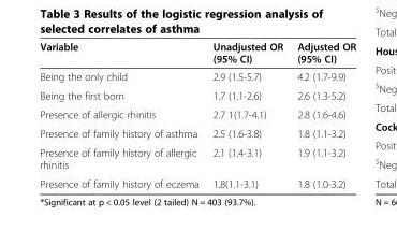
<table><thead><tr><td>Variable</td><td>Unadjusted OR (95% CI)</td><td>Adjusted OR (95% CI)</td></tr></thead><tbody><tr><td>Being the only child</td><td>2.9 (1.5-5.7)</td><td>4.2 (1.7-9.9)</td></tr><tr><td>Being the first born</td><td>1.7 (1.1-2.6)</td><td>2.6 (1.3-5.2)</td></tr><tr><td>Presence of allergic rhinitis</td><td>2.7 1(1.7-4.1)</td><td>2.8 (1.6-4.6)</td></tr><tr><td>Presence of family history of asthma</td><td>2.5 (1.6-3.8)</td><td>1.8 (1.1-3.2)</td></tr><tr><td>Presence of family history of allergic rhinitis</td><td>2.1 (1.4-3.1)</td><td>1.9 (1.1-3.2)</td></tr><tr><td>Presence of family history of eczema</td><td>1.8(1.1-3.1)</td><td>1.8 (1.0-3.2)</td></tr></tbody></table>